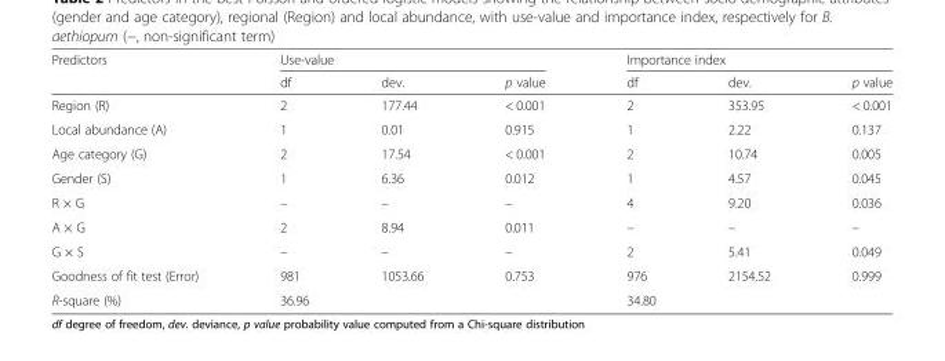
<table><thead><tr><td rowspan="2">Predictors</td><td colspan="3">Use-value</td><td colspan="3">Importance index</td></tr><tr><td>df</td><td>dev.</td><td>p value</td><td>df</td><td>dev.</td><td>p value</td></tr></thead><tbody><tr><td>Region (R)</td><td>2</td><td>177.44</td><td>&lt; 0.001</td><td>2</td><td>353.95</td><td>&lt; 0.001</td></tr><tr><td>Local abundance (A)</td><td>1</td><td>0.01</td><td>0.915</td><td>1</td><td>2.22</td><td>0.137</td></tr><tr><td>Age category (G)</td><td>2</td><td>17.54</td><td>&lt; 0.001</td><td>2</td><td>10.74</td><td>0.005</td></tr><tr><td>Gender (S)</td><td>1</td><td>6.36</td><td>0.012</td><td>1</td><td>4.57</td><td>0.045</td></tr><tr><td>R × G</td><td>–</td><td>–</td><td>–</td><td>4</td><td>9.20</td><td>0.036</td></tr><tr><td>A × G</td><td>2</td><td>8.94</td><td>0.011</td><td>–</td><td>–</td><td>–</td></tr><tr><td>G × S</td><td>–</td><td>–</td><td>–</td><td>2</td><td>5.41</td><td>0.049</td></tr><tr><td>Goodness of fit test (Error)</td><td>981</td><td>1053.66</td><td>0.753</td><td>976</td><td>2154.52</td><td>0.999</td></tr><tr><td>R-square (%)</td><td colspan="3">36.96</td><td colspan="3">34.80</td></tr></tbody></table>